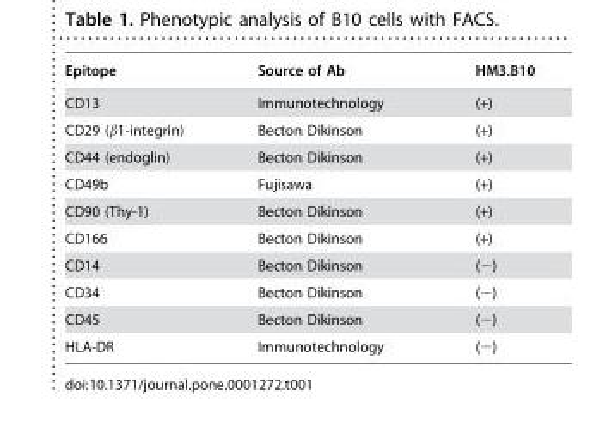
<table><thead><tr><td>Epitope</td><td>Source of Ab</td><td>HM3.B10</td></tr></thead><tbody><tr><td>CD13</td><td>Immunotechnology</td><td>(+)</td></tr><tr><td>CD29 (β1-integrin)</td><td>Becton Dikinson</td><td>(+)</td></tr><tr><td>CD44 (endoglin)</td><td>Becton Dikinson</td><td>(+)</td></tr><tr><td>CD49b</td><td>Fujisawa</td><td>(+)</td></tr><tr><td>CD90 (Thy-1)</td><td>Becton Dikinson</td><td>(+)</td></tr><tr><td>CD166</td><td>Becton Dikinson</td><td>(+)</td></tr><tr><td>CD14</td><td>Becton Dikinson</td><td>(−)</td></tr><tr><td>CD34</td><td>Becton Dikinson</td><td>(−)</td></tr><tr><td>CD45</td><td>Becton Dikinson</td><td>(−)</td></tr><tr><td>HLA-DR</td><td>Immunotechnology</td><td>(−)</td></tr></tbody></table>